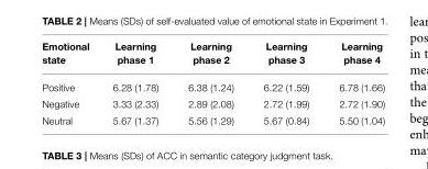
<table><thead><tr><td>Emotional state</td><td>Learning phase 1</td><td>Learning phase 2</td><td>Learning phase 3</td><td>Learning phase 4</td></tr></thead><tbody><tr><td>Positive</td><td>6.28 (1.78)</td><td>6.38 (1.24)</td><td>6.22 (1.59)</td><td>6.78 (1.66)</td></tr><tr><td>Negative</td><td>3.33 (2.33)</td><td>2.89 (2.08)</td><td>2.72 (1.99)</td><td>2.72 (1.90)</td></tr><tr><td>Neutral</td><td>5.67 (1.37)</td><td>5.56 (1.29)</td><td>5.67 (0.84)</td><td>5.50 (1.04)</td></tr></tbody></table>